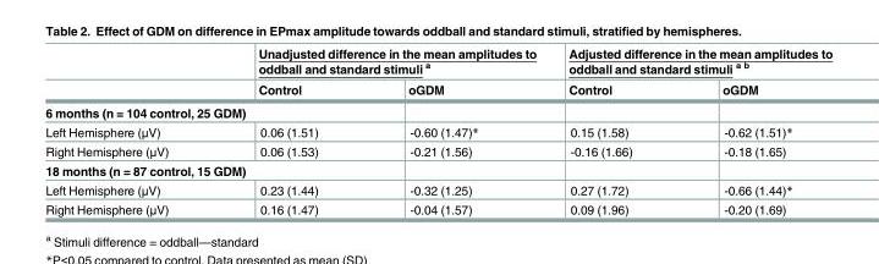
<table><thead><tr><td rowspan="2"></td><td colspan="2">Unadjusted difference in the mean amplitudes to oddball and standard stimuli <sup>a</sup></td><td colspan="2">Adjusted difference in the mean amplitudes to oddball and standard stimuli <sup>a b</sup></td></tr><tr><td>Control</td><td>oGDM</td><td>Control</td><td>oGDM</td></tr></thead><tbody><tr><td colspan="5">6 months (n = 104 control, 25 GDM)</td></tr><tr><td>Left Hemisphere (μV)</td><td>0.06 (1.51)</td><td>-0.60 (1.47)*</td><td>0.15 (1.58)</td><td>-0.62 (1.51)*</td></tr><tr><td>Right Hemisphere (μV)</td><td>0.06 (1.53)</td><td>-0.21 (1.56)</td><td>-0.16 (1.66)</td><td>-0.18 (1.65)</td></tr><tr><td colspan="5">18 months (n = 87 control, 15 GDM)</td></tr><tr><td>Left Hemisphere (μV)</td><td>0.23 (1.44)</td><td>-0.32 (1.25)</td><td>0.27 (1.72)</td><td>-0.66 (1.44)*</td></tr><tr><td>Right Hemisphere (μV)</td><td>0.16 (1.47)</td><td>-0.04 (1.57)</td><td>0.09 (1.96)</td><td>-0.20 (1.69)</td></tr></tbody></table>